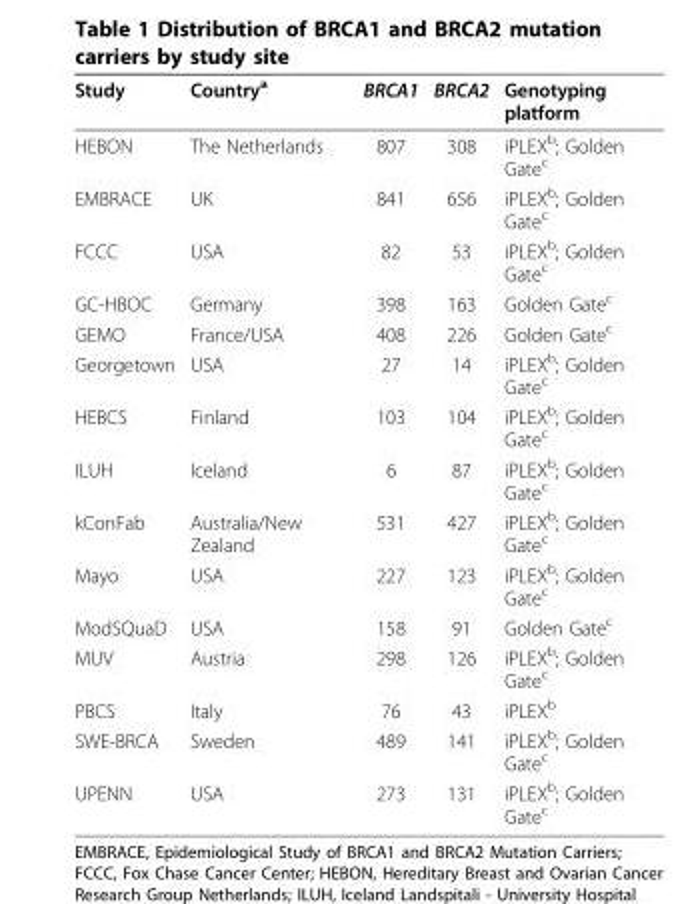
<table><thead><tr><td>Study</td><td>Country<sup>a</sup></td><td>BRCA1</td><td>BRCA2</td><td>Genotyping platform</td></tr></thead><tbody><tr><td>HEBON</td><td>The Netherlands</td><td>807</td><td>308</td><td>iPLEX<sup>b</sup>; Golden Gate<sup>c</sup></td></tr><tr><td>EMBRACE</td><td>UK</td><td>841</td><td>656</td><td>iPLEX<sup>b</sup>; Golden Gate<sup>c</sup></td></tr><tr><td>FCCC</td><td>USA</td><td>82</td><td>53</td><td>iPLEX<sup>b</sup>; Golden Gate<sup>c</sup></td></tr><tr><td>GC-HBOC</td><td>Germany</td><td>398</td><td>163</td><td>Golden Gate<sup>c</sup></td></tr><tr><td>GEMO</td><td>France/USA</td><td>408</td><td>226</td><td>Golden Gate<sup>c</sup></td></tr><tr><td>Georgetown</td><td>USA</td><td>27</td><td>14</td><td>iPLEX<sup>b</sup>; Golden Gate<sup>c</sup></td></tr><tr><td>HEBCS</td><td>Finland</td><td>103</td><td>104</td><td>iPLEX<sup>b</sup>; Golden Gate<sup>c</sup></td></tr><tr><td>ILUH</td><td>Iceland</td><td>6</td><td>87</td><td>iPLEX<sup>b</sup>; Golden Gate<sup>c</sup></td></tr><tr><td>kConFab</td><td>Australia/New Zealand</td><td>531</td><td>427</td><td>iPLEX<sup>b</sup>; Golden Gate<sup>c</sup></td></tr><tr><td>Mayo</td><td>USA</td><td>227</td><td>123</td><td>iPLEX<sup>b</sup>; Golden Gate<sup>c</sup></td></tr><tr><td>ModSQuaD</td><td>USA</td><td>158</td><td>91</td><td>Golden Gate<sup>c</sup></td></tr><tr><td>MUV</td><td>Austria</td><td>298</td><td>126</td><td>iPLEX<sup>b</sup>; Golden Gate<sup>c</sup></td></tr><tr><td>PBCS</td><td>Italy</td><td>76</td><td>43</td><td>iPLEX<sup>b</sup></td></tr><tr><td>SWE-BRCA</td><td>Sweden</td><td>489</td><td>141</td><td>iPLEX<sup>b</sup>; Golden Gate<sup>c</sup></td></tr><tr><td>UPENN</td><td>USA</td><td>273</td><td>131</td><td>iPLEX<sup>b</sup>; Golden Gate<sup>c</sup></td></tr></tbody></table>